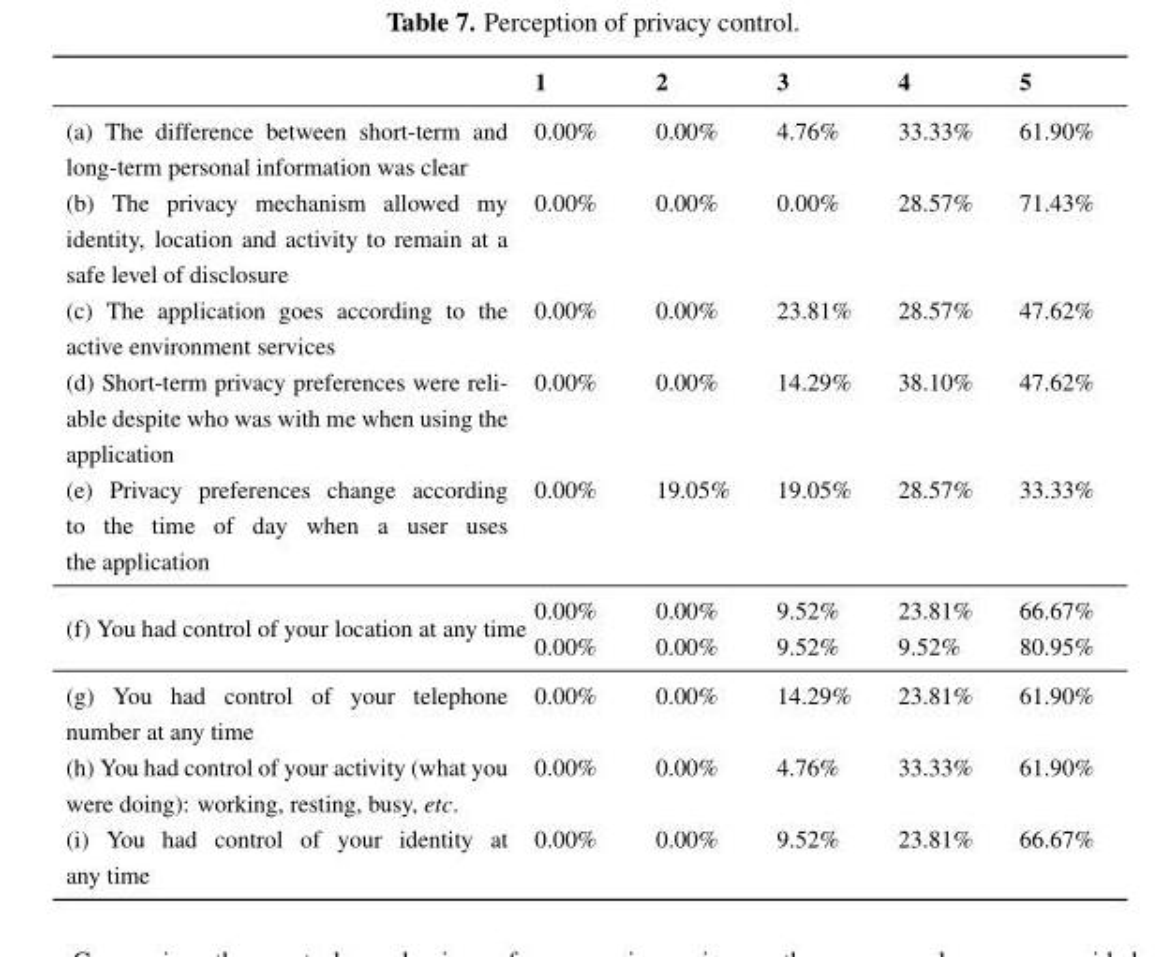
<table><thead><tr><td></td><td>1</td><td>2</td><td>3</td><td>4</td><td>5</td></tr></thead><tbody><tr><td>(a) The difference between short-term and long-term personal information was clear</td><td>0.00%</td><td>0.00%</td><td>4.76%</td><td>33.33%</td><td>61.90%</td></tr><tr><td>(b) The privacy mechanism allowed my identity, location and activity to remain at a safe level of disclosure</td><td>0.00%</td><td>0.00%</td><td>0.00%</td><td>28.57%</td><td>71.43%</td></tr><tr><td>(c) The application goes according to the active environment services</td><td>0.00%</td><td>0.00%</td><td>23.81%</td><td>28.57%</td><td>47.62%</td></tr><tr><td>(d) Short-term privacy preferences were reli- able despite who was with me when using the application</td><td>0.00%</td><td>0.00%</td><td>14.29%</td><td>38.10%</td><td>47.62%</td></tr><tr><td>(e) Privacy preferences change according to the time of day when a user uses the application</td><td>0.00%</td><td>19.05%</td><td>19.05%</td><td>28.57%</td><td>33.33%</td></tr><tr><td rowspan="2">(f) You had control of your location at any time</td><td>0.00%</td><td>0.00%</td><td>9.52%</td><td>23.81%</td><td>66.67%</td></tr><tr><td>0.00%</td><td>0.00%</td><td>9.52%</td><td>9.52%</td><td>80.95%</td></tr><tr><td>(g) You had control of your telephone number at any time</td><td>0.00%</td><td>0.00%</td><td>14.29%</td><td>23.81%</td><td>61.90%</td></tr><tr><td>(h) You had control of your activity (what you were doing): working, resting, busy, etc.</td><td>0.00%</td><td>0.00%</td><td>4.76%</td><td>33.33%</td><td>61.90%</td></tr><tr><td>(i) You had control of your identity at any time</td><td>0.00%</td><td>0.00%</td><td>9.52%</td><td>23.81%</td><td>66.67%</td></tr></tbody></table>